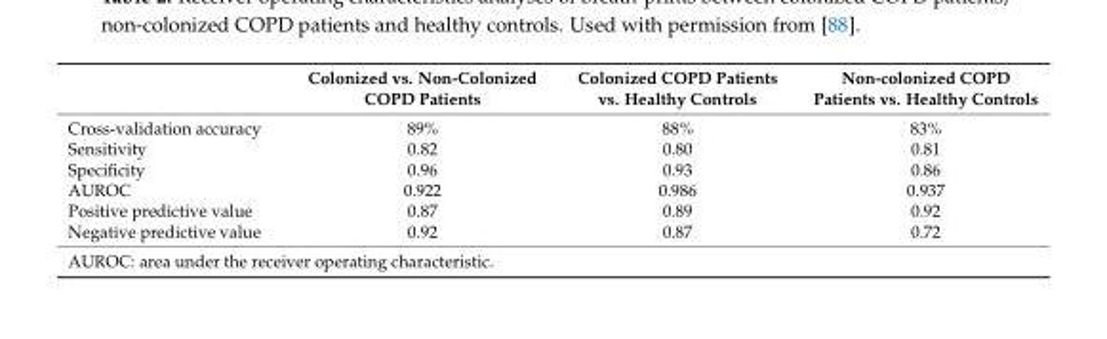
<table><thead><tr><td></td><td>Colonized vs. Non-Colonized COPD Patients</td><td>Colonized COPD Patients vs. Healthy Controls</td><td>Non-colonized COPD Patients vs. Healthy Controls</td></tr></thead><tbody><tr><td>Cross-validation accuracy</td><td>89%</td><td>88%</td><td>83%</td></tr><tr><td>Sensitivity</td><td>0.82</td><td>0.80</td><td>0.81</td></tr><tr><td>Specificity</td><td>0.96</td><td>0.93</td><td>0.86</td></tr><tr><td>AUROC</td><td>0.922</td><td>0.986</td><td>0.937</td></tr><tr><td>Positive predictive value</td><td>0.87</td><td>0.89</td><td>0.92</td></tr><tr><td>Negative predictive value</td><td>0.92</td><td>0.87</td><td>0.72</td></tr><tr><td colspan="4">AUROC: area under the receiver operating characteristic.</td></tr></tbody></table>